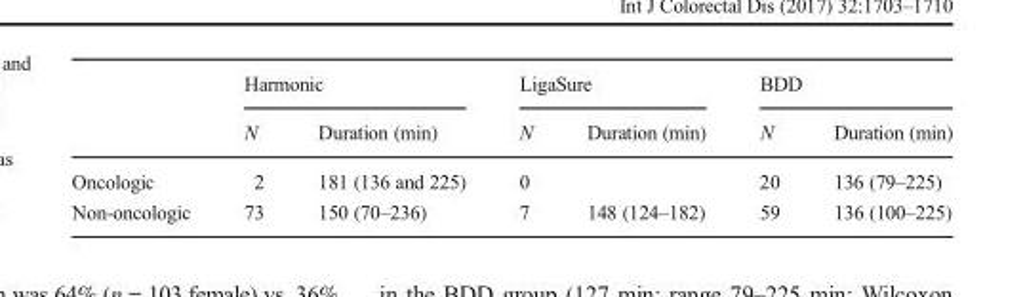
<table><thead><tr><td rowspan="2"></td><td colspan="2">Harmonic</td><td colspan="2">LigaSure</td><td colspan="2">BDD</td></tr><tr><td>N</td><td>Duration (min)</td><td>N</td><td>Duration (min)</td><td>N</td><td>Duration (min)</td></tr></thead><tbody><tr><td>Oncologic</td><td>2</td><td>181 (136 and 225)</td><td>0</td><td></td><td>20</td><td>136 (79–225)</td></tr><tr><td>Non-oncologic</td><td>73</td><td>150 (70–236)</td><td>7</td><td>148 (124–182)</td><td>59</td><td>136 (100–225)</td></tr></tbody></table>